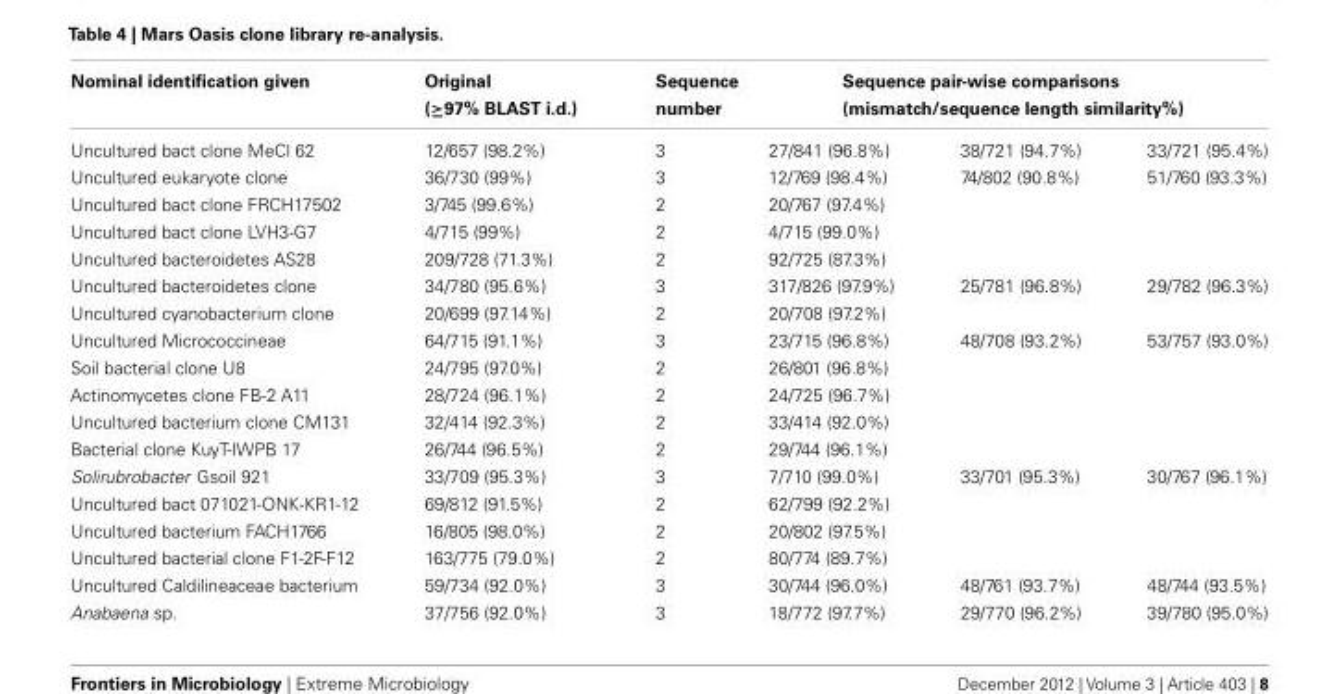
<table><thead><tr><td rowspan="2">Nominal identification given Uncultured bact clone MeCl 62</td><td rowspan="2">Original (≥97% BLAST i.d.) 12/657 (98.2%)</td><td rowspan="2">Sequence number 3</td><td colspan="3">Sequence pair-wise comparisons (mismatch/sequence length similarity%)</td></tr><tr><td>27/841 (96.8%)</td><td>38/721 (94.7%)</td><td>33/721 (95.4%)</td></tr></thead><tbody><tr><td>Uncultured eukaryote clone</td><td>36/730 (99%)</td><td>3</td><td>12/769 (98.4%)</td><td>74/802 (90.8%)</td><td>51/760 (93.3%)</td></tr><tr><td>Uncultured bact clone FRCH17502</td><td>3/745 (99.6%)</td><td>2</td><td>20/767 (97.4%)</td><td></td><td></td></tr><tr><td>Uncultured bact clone LVH3-G7</td><td>4/715 (99%)</td><td>2</td><td>4/715 (99.0%)</td><td></td><td></td></tr><tr><td>Uncultured bacteroidetes AS28</td><td>209/728 (71.3%)</td><td>2</td><td>92/725 (87.3%)</td><td></td><td></td></tr><tr><td>Uncultured bacteroidetes clone</td><td>34/780 (95.6%)</td><td>3</td><td>317/826 (97.9%)</td><td>25/781 (96.8%)</td><td>29/782 (96.3%)</td></tr><tr><td>Uncultured cyanobacterium clone</td><td>20/699 (97.14%)</td><td>2</td><td>20/708 (97.2%)</td><td></td><td></td></tr><tr><td>Uncultured Micrococcineae</td><td>64/715 (91.1%)</td><td>3</td><td>23/715 (96.8%)</td><td>48/708 (93.2%)</td><td>53/757 (93.0%)</td></tr><tr><td>Soil bacterial clone U8</td><td>24/795 (97.0%)</td><td>2</td><td>26/801 (96.8%)</td><td></td><td></td></tr><tr><td>Actinomycetes clone FB-2 A11</td><td>28/724 (96.1%)</td><td>2</td><td>24/725 (96.7%)</td><td></td><td></td></tr><tr><td>Uncultured bacterium clone CM131</td><td>32/414 (92.3%)</td><td>2</td><td>33/414 (92.0%)</td><td></td><td></td></tr><tr><td>Bacterial clone KuyT-IWPB 17</td><td>26/744 (96.5%)</td><td>2</td><td>29/744 (96.1%)</td><td></td><td></td></tr><tr><td>Solirubrobacter Gsoil 921</td><td>33/709 (95.3%)</td><td>3</td><td>7/710 (99.0%)</td><td>33/701 (95.3%)</td><td>30/767 (96.1%)</td></tr><tr><td>Uncultured bact 071021-ONK-KR1-12</td><td>69/812 (91.5%)</td><td>2</td><td>62/799 (92.2%)</td><td></td><td></td></tr><tr><td>Uncultured bacterium FACH1766</td><td>16/805 (98.0%)</td><td>2</td><td>20/802 (97.5%)</td><td></td><td></td></tr><tr><td>Uncultured bacterial clone F1-2F-F12</td><td>163/775 (79.0%)</td><td>2</td><td>80/774 (89.7%)</td><td></td><td></td></tr><tr><td>Uncultured Caldilineaceae bacterium</td><td>59/734 (92.0%)</td><td>3</td><td>30/744 (96.0%)</td><td>48/761 (93.7%)</td><td>48/744 (93.5%)</td></tr><tr><td>Anabaena sp.</td><td>37/756 (92.0%)</td><td>3</td><td>18/772 (97.7%)</td><td>29/770 (96.2%)</td><td>39/780 (95.0%)</td></tr></tbody></table>